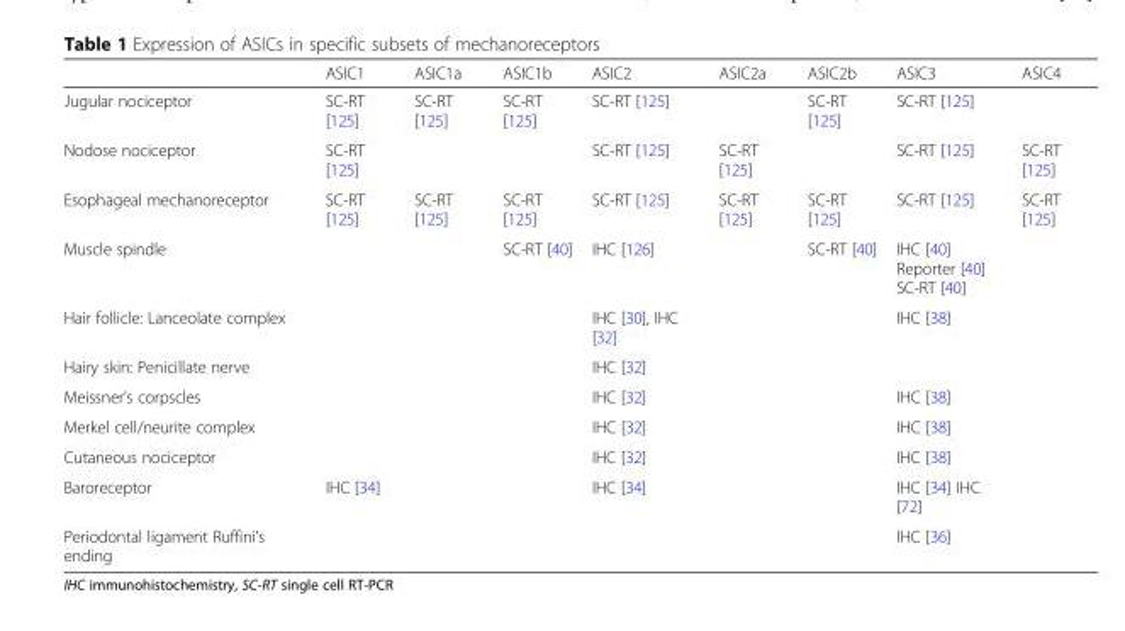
<table><thead><tr><td></td><td>ASIC1</td><td>ASIC1a</td><td>ASIC1b</td><td>ASIC2</td><td>ASIC2a</td><td>ASIC2b</td><td>ASIC3</td><td>ASIC4</td></tr></thead><tbody><tr><td>Jugular nociceptor</td><td>SC-RT [125]</td><td>SC-RT [125]</td><td>SC-RT [125]</td><td>SC-RT [125]</td><td></td><td>SC-RT [125]</td><td>SC-RT [125]</td><td></td></tr><tr><td>Nodose nociceptor</td><td>SC-RT [125]</td><td></td><td></td><td>SC-RT [125]</td><td>SC-RT [125]</td><td></td><td>SC-RT [125]</td><td>SC-RT [125]</td></tr><tr><td>Esophageal mechanoreceptor</td><td>SC-RT [125]</td><td>SC-RT [125]</td><td>SC-RT [125]</td><td>SC-RT [125]</td><td>SC-RT [125]</td><td>SC-RT [125]</td><td>SC-RT [125]</td><td>SC-RT [125]</td></tr><tr><td>Muscle spindle</td><td></td><td></td><td>SC-RT [40]</td><td>IHC [126]</td><td></td><td>SC-RT [40]</td><td>IHC [40] Reporter [40] SC-RT [40]</td><td></td></tr><tr><td>Hair follicle: Lanceolate complex</td><td></td><td></td><td></td><td>IHC [30], IHC [32]</td><td></td><td></td><td>IHC [38]</td><td></td></tr><tr><td>Hairy skin: Penicillate nerve</td><td></td><td></td><td></td><td>IHC [32]</td><td></td><td></td><td></td><td></td></tr><tr><td>Meissner’s corpscles</td><td></td><td></td><td></td><td>IHC [32]</td><td></td><td></td><td>IHC [38]</td><td></td></tr><tr><td>Merkel cell/neurite complex</td><td></td><td></td><td></td><td>IHC [32]</td><td></td><td></td><td>IHC [38]</td><td></td></tr><tr><td>Cutaneous nociceptor</td><td></td><td></td><td></td><td>IHC [32]</td><td></td><td></td><td>IHC [38]</td><td></td></tr><tr><td>Baroreceptor</td><td>IHC [34]</td><td></td><td></td><td>IHC [34]</td><td></td><td></td><td>IHC [34] IHC [72]</td><td></td></tr><tr><td>Periodontal ligament Ruffini’s ending</td><td></td><td></td><td></td><td></td><td></td><td></td><td>IHC [36]</td><td></td></tr></tbody></table>